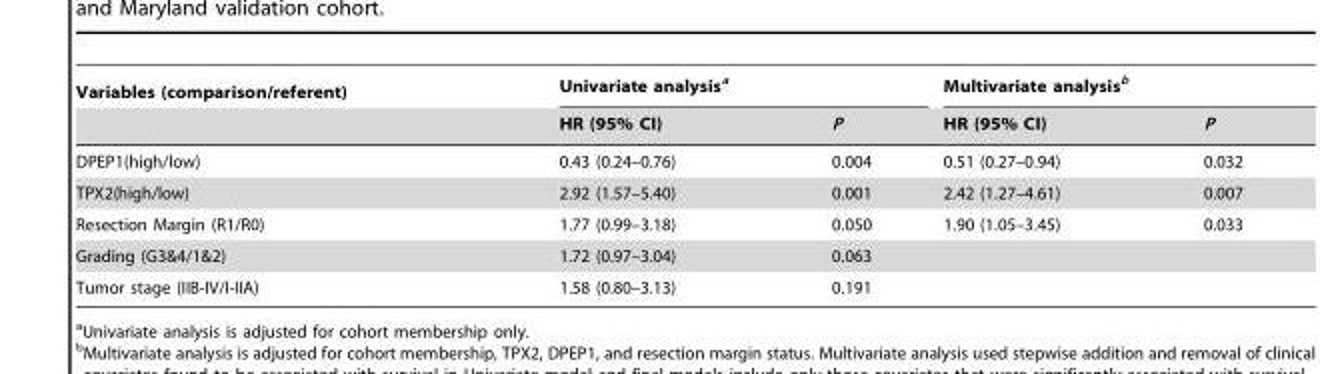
<table><thead><tr><td rowspan="2">Variables (comparison/referent)</td><td colspan="2">Univariate analysis<sup>a</sup></td><td colspan="2">Multivariate analysis<sup>b</sup></td></tr><tr><td>HR (95% CI)</td><td>P</td><td>HR (95% CI)</td><td>P</td></tr></thead><tbody><tr><td>DPEP1(high/low)</td><td>0.43 (0.24–0.76)</td><td>0.004</td><td>0.51 (0.27–0.94)</td><td>0.032</td></tr><tr><td>TPX2(high/low)</td><td>2.92 (1.57–5.40)</td><td>0.001</td><td>2.42 (1.27–4.61)</td><td>0.007</td></tr><tr><td>Resection Margin (R1/R0)</td><td>1.77 (0.99–3.18)</td><td>0.050</td><td>1.90 (1.05–3.45)</td><td>0.033</td></tr><tr><td>Grading (G3&amp;4/1&amp;2)</td><td>1.72 (0.97–3.04)</td><td>0.063</td><td></td><td></td></tr><tr><td>Tumor stage (IIB-IV/I-IIA)</td><td>1.58 (0.80–3.13)</td><td>0.191</td><td></td><td></td></tr></tbody></table>